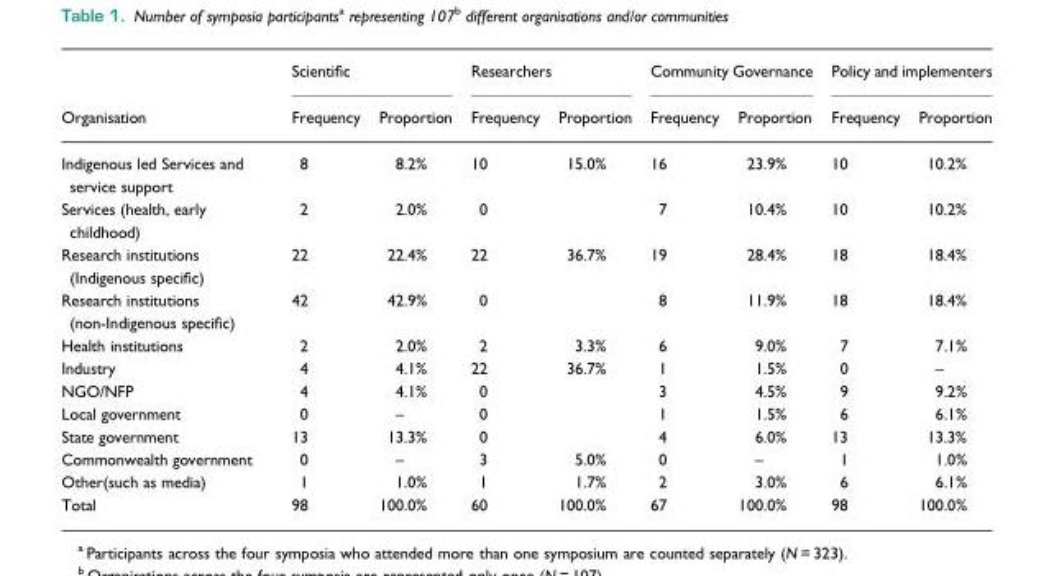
<table><thead><tr><td rowspan="2">Organisation</td><td colspan="2">Scientific</td><td colspan="2">Researchers</td><td colspan="2">Community Governance</td><td colspan="2">Policy and implementers</td></tr><tr><td>Frequency</td><td>Proportion</td><td>Frequency</td><td>Proportion</td><td>Frequency</td><td>Proportion</td><td>Frequency</td><td>Proportion</td></tr></thead><tbody><tr><td>Indigenous led Services and service support</td><td>8</td><td>8.2%</td><td>10</td><td>15.0%</td><td>16</td><td>23.9%</td><td>10</td><td>10.2%</td></tr><tr><td>Services (health, early childhood)</td><td>2</td><td>2.0%</td><td>0</td><td></td><td>7</td><td>10.4%</td><td>10</td><td>10.2%</td></tr><tr><td>Research institutions (Indigenous specific)</td><td>22</td><td>22.4%</td><td>22</td><td>36.7%</td><td>19</td><td>28.4%</td><td>18</td><td>18.4%</td></tr><tr><td>Research institutions (non-Indigenous specific)</td><td>42</td><td>42.9%</td><td>0</td><td></td><td>8</td><td>11.9%</td><td>18</td><td>18.4%</td></tr><tr><td>Health institutions</td><td>2</td><td>2.0%</td><td>2</td><td>3.3%</td><td>6</td><td>9.0%</td><td>7</td><td>7.1%</td></tr><tr><td>Industry</td><td>4</td><td>4.1%</td><td>22</td><td>36.7%</td><td>1</td><td>1.5%</td><td>0</td><td>–</td></tr><tr><td>NGO/NFP</td><td>4</td><td>4.1%</td><td>0</td><td></td><td>3</td><td>4.5%</td><td>9</td><td>9.2%</td></tr><tr><td>Local government</td><td>0</td><td>–</td><td>0</td><td></td><td>1</td><td>1.5%</td><td>6</td><td>6.1%</td></tr><tr><td>State government</td><td>13</td><td>13.3%</td><td>0</td><td></td><td>4</td><td>6.0%</td><td>13</td><td>13.3%</td></tr><tr><td>Commonwealth government</td><td>0</td><td>–</td><td>3</td><td>5.0%</td><td>0</td><td>–</td><td>1</td><td>1.0%</td></tr><tr><td>Other(such as media)</td><td>1</td><td>1.0%</td><td>1</td><td>1.7%</td><td>2</td><td>3.0%</td><td>6</td><td>6.1%</td></tr><tr><td>Total</td><td>98</td><td>100.0%</td><td>60</td><td>100.0%</td><td>67</td><td>100.0%</td><td>98</td><td>100.0%</td></tr></tbody></table>